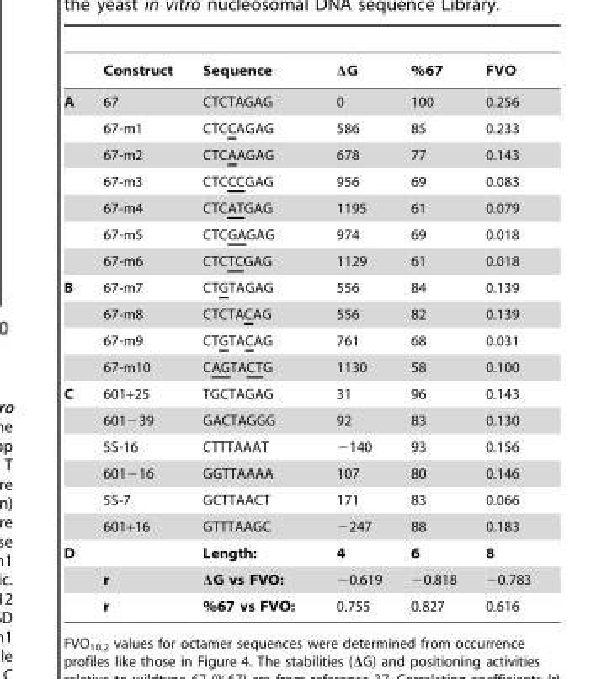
<table><thead><tr><td></td><td>Construct</td><td>Sequence</td><td>ΔG</td><td>%67</td><td>FVO</td></tr></thead><tbody><tr><td rowspan="7">A</td><td>67</td><td>CTCTAGAG</td><td>0</td><td>100</td><td>0.256</td></tr><tr><td>67-m1</td><td>CTCCAGAG</td><td>586</td><td>85</td><td>0.233</td></tr><tr><td>67-m2</td><td>CTCAAGAG</td><td>678</td><td>77</td><td>0.143</td></tr><tr><td>67-m3</td><td>CTCCCGAG</td><td>956</td><td>69</td><td>0.083</td></tr><tr><td>67-m4</td><td>CTCATGAG</td><td>1195</td><td>61</td><td>0.079</td></tr><tr><td>67-m5</td><td>CTCGAGAG</td><td>974</td><td>69</td><td>0.018</td></tr><tr><td>67-m6</td><td>CTCTCGAG</td><td>1129</td><td>61</td><td>0.018</td></tr><tr><td rowspan="4">B</td><td>67-m7</td><td>CTGTAGAG</td><td>556</td><td>84</td><td>0.139</td></tr><tr><td>67-m8</td><td>CTCTACAG</td><td>556</td><td>82</td><td>0.139</td></tr><tr><td>67-m9</td><td>CTGTACAG</td><td>761</td><td>68</td><td>0.031</td></tr><tr><td>67-m10</td><td>CAGTACTG</td><td>1130</td><td>58</td><td>0.100</td></tr><tr><td rowspan="6">C</td><td>601+25</td><td>TGCTAGAG</td><td>31</td><td>96</td><td>0.143</td></tr><tr><td>601−39</td><td>GACTAGGG</td><td>92</td><td>83</td><td>0.130</td></tr><tr><td>5S-16</td><td>CTTTAAAT</td><td>−140</td><td>93</td><td>0.156</td></tr><tr><td>601−16</td><td>GGTTAAAA</td><td>107</td><td>80</td><td>0.146</td></tr><tr><td>5S-7</td><td>GCTTAACT</td><td>171</td><td>83</td><td>0.066</td></tr><tr><td>601+16</td><td>GTTTAAGC</td><td>−247</td><td>88</td><td>0.183</td></tr><tr><td rowspan="3">D</td><td></td><td>Length:</td><td>4</td><td>6</td><td>8</td></tr><tr><td>r</td><td>ΔG vs FVO:</td><td>−0.619</td><td>−0.818</td><td>−0.783</td></tr><tr><td>r</td><td>%67 vs FVO:</td><td>0.755</td><td>0.827</td><td>0.616</td></tr></tbody></table>